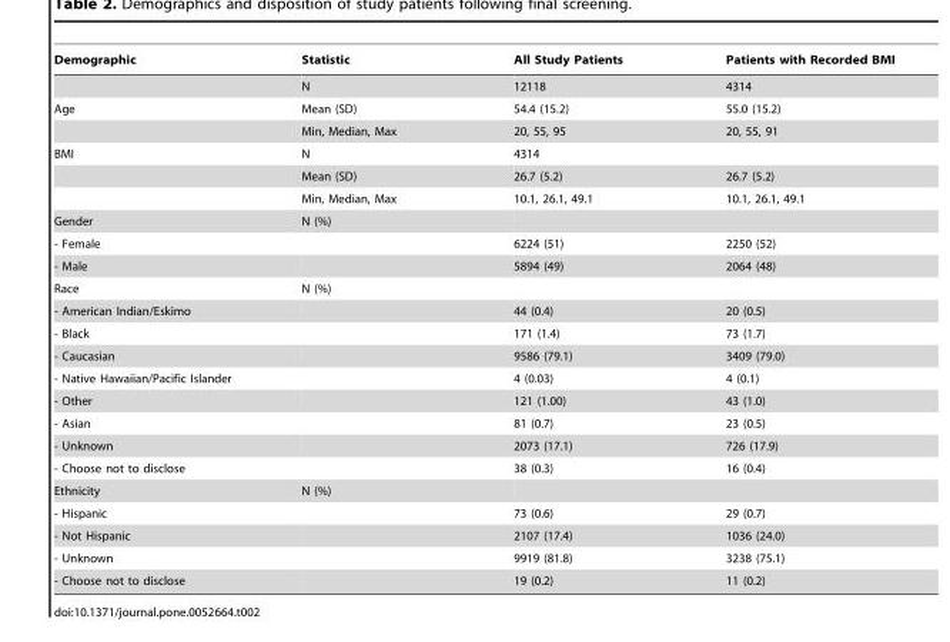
<table><thead><tr><td>Demographic</td><td>Statistic</td><td>All Study Patients</td><td>Patients with Recorded BMI</td></tr></thead><tbody><tr><td></td><td>N</td><td>12118</td><td>4314</td></tr><tr><td rowspan="2">Age</td><td>Mean (SD)</td><td>54.4 (15.2)</td><td>55.0 (15.2)</td></tr><tr><td>Min, Median, Max</td><td>20, 55, 95</td><td>20, 55, 91</td></tr><tr><td rowspan="3">BMI</td><td>N</td><td>4314</td><td></td></tr><tr><td>Mean (SD)</td><td>26.7 (5.2)</td><td>26.7 (5.2)</td></tr><tr><td>Min, Median, Max</td><td>10.1, 26.1, 49.1</td><td>10.1, 26.1, 49.1</td></tr><tr><td>Gender</td><td>N (%)</td><td></td><td></td></tr><tr><td>- Female</td><td></td><td>6224 (51)</td><td>2250 (52)</td></tr><tr><td>- Male</td><td></td><td>5894 (49)</td><td>2064 (48)</td></tr><tr><td>Race</td><td>N (%)</td><td></td><td></td></tr><tr><td>- American Indian/Eskimo</td><td></td><td>44 (0.4)</td><td>20 (0.5)</td></tr><tr><td>- Black</td><td></td><td>171 (1.4)</td><td>73 (1.7)</td></tr><tr><td>- Caucasian</td><td></td><td>9586 (79.1)</td><td>3409 (79.0)</td></tr><tr><td>- Native Hawaiian/Pacific Islander</td><td></td><td>4 (0.03)</td><td>4 (0.1)</td></tr><tr><td>- Other</td><td></td><td>121 (1.00)</td><td>43 (1.0)</td></tr><tr><td>- Asian</td><td></td><td>81 (0.7)</td><td>23 (0.5)</td></tr><tr><td>- Unknown</td><td></td><td>2073 (17.1)</td><td>726 (17.9)</td></tr><tr><td>- Choose not to disclose</td><td></td><td>38 (0.3)</td><td>16 (0.4)</td></tr><tr><td>Ethnicity</td><td>N (%)</td><td></td><td></td></tr><tr><td>- Hispanic</td><td></td><td>73 (0.6)</td><td>29 (0.7)</td></tr><tr><td>- Not Hispanic</td><td></td><td>2107 (17.4)</td><td>1036 (24.0)</td></tr><tr><td>- Unknown</td><td></td><td>9919 (81.8)</td><td>3238 (75.1)</td></tr><tr><td>- Choose not to disclose</td><td></td><td>19 (0.2)</td><td>11 (0.2)</td></tr></tbody></table>